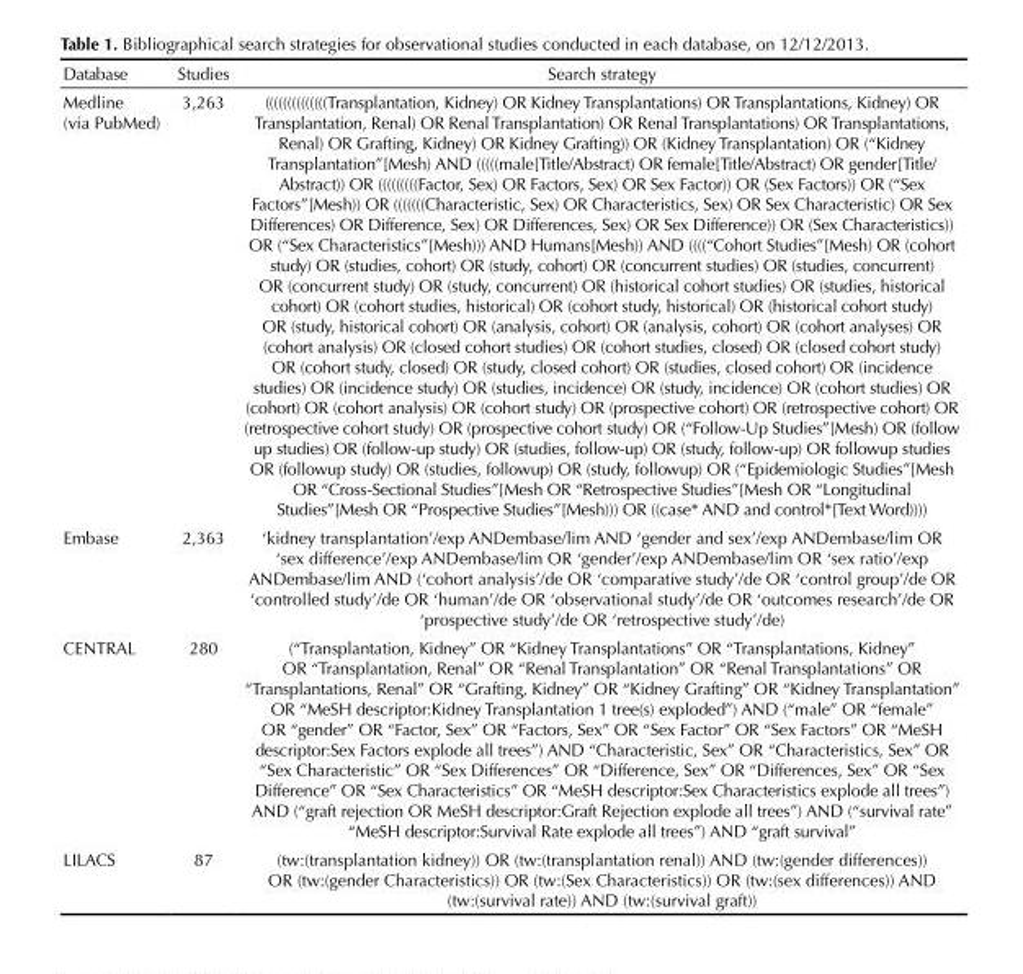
<table><thead><tr><td>Database</td><td>Studies</td><td>Search strategy</td></tr></thead><tbody><tr><td>Medline (via PubMed)</td><td>3,263</td><td>((((((((((((((Transplantation, Kidney) OR Kidney Transplantations) OR Transplantations, Kidney) OR Transplantation, Renal) OR Renal Transplantation) OR Renal Transplantations) OR Transplantations, Renal) OR Grafting, Kidney) OR Kidney Grafting)) OR (Kidney Transplantation) OR (“Kidney Transplantation”[Mesh) AND (((((male[Title/Abstract) OR female[Title/Abstract) OR gender[Title/ Abstract)) OR (((((((((Factor, Sex) OR Factors, Sex) OR Sex Factor)) OR (Sex Factors)) OR (“Sex Factors”[Mesh)) OR (((((((Characteristic, Sex) OR Characteristics, Sex) OR Sex Characteristic) OR Sex Differences) OR Difference, Sex) OR Differences, Sex) OR Sex Difference)) OR (Sex Characteristics)) OR (“Sex Characteristics”[Mesh))) AND Humans[Mesh)) AND ((((“Cohort Studies”[Mesh) OR (cohort study) OR (studies, cohort) OR (study, cohort) OR (concurrent studies) OR (studies, concurrent) OR (concurrent study) OR (study, concurrent) OR (historical cohort studies) OR (studies, historical cohort) OR (cohort studies, historical) OR (cohort study, historical) OR (historical cohort study) OR (study, historical cohort) OR (analysis, cohort) OR (analysis, cohort) OR (cohort analyses) OR (cohort analysis) OR (closed cohort studies) OR (cohort studies, closed) OR (closed cohort study) OR (cohort study, closed) OR (study, closed cohort) OR (studies, closed cohort) OR (incidence studies) OR (incidence study) OR (studies, incidence) OR (study, incidence) OR (cohort studies) OR (cohort) OR (cohort analysis) OR (cohort study) OR (prospective cohort) OR (retrospective cohort) OR (retrospective cohort study) OR (prospective cohort study) OR (“Follow-Up Studies”[Mesh) OR (follow up studies) OR (follow-up study) OR (studies, follow-up) OR (study, follow-up) OR followup studies OR (followup study) OR (studies, followup) OR (study, followup) OR (“Epidemiologic Studies”[Mesh OR “Cross-Sectional Studies”[Mesh OR “Retrospective Studies”[Mesh OR “Longitudinal Studies”[Mesh OR “Prospective Studies”[Mesh))) OR ((case* AND and control*[Text Word))))</td></tr><tr><td>Embase</td><td>2,363</td><td>‘kidney transplantation’/exp ANDembase/lim AND ‘gender and sex’/exp ANDembase/lim OR ‘sex difference’/exp ANDembase/lim OR ‘gender’/exp ANDembase/lim OR ‘sex ratio’/exp ANDembase/lim AND (‘cohort analysis’/de OR ‘comparative study’/de OR ‘control group’/de OR ‘controlled study’/de OR ‘human’/de OR ‘observational study’/de OR ‘outcomes research’/de OR ‘prospective study’/de OR ‘retrospective study’/de)</td></tr><tr><td>CENTRAL</td><td>280</td><td>(“Transplantation, Kidney” OR “Kidney Transplantations” OR “Transplantations, Kidney” OR “Transplantation, Renal” OR “Renal Transplantation” OR “Renal Transplantations” OR “Transplantations, Renal” OR “Grafting, Kidney” OR “Kidney Grafting” OR “Kidney Transplantation” OR “MeSH descriptor:Kidney Transplantation 1 tree(s) exploded”) AND (“male” OR “female” OR “gender” OR “Factor, Sex” OR “Factors, Sex” OR “Sex Factor” OR “Sex Factors” OR “MeSH descriptor:Sex Factors explode all trees”) AND “Characteristic, Sex” OR “Characteristics, Sex” OR “Sex Characteristic” OR “Sex Differences” OR “Difference, Sex” OR “Differences, Sex” OR “Sex Difference” OR “Sex Characteristics” OR “MeSH descriptor:Sex Characteristics explode all trees”) AND (“graft rejection OR MeSH descriptor:Graft Rejection explode all trees”) AND (“survival rate” “MeSH descriptor:Survival Rate explode all trees”) AND “graft survival”</td></tr><tr><td>LILACS</td><td>87</td><td>(tw:(transplantation kidney)) OR (tw:(transplantation renal)) AND (tw:(gender differences)) OR (tw:(gender Characteristics)) OR (tw:(Sex Characteristics)) OR (tw:(sex differences)) AND (tw:(survival rate)) AND (tw:(survival graft))</td></tr></tbody></table>